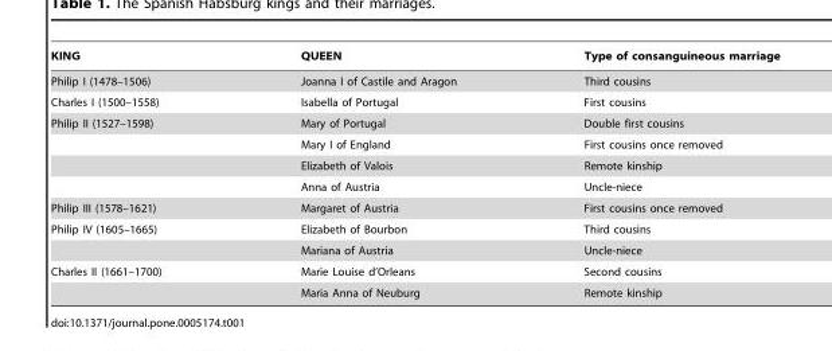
<table><thead><tr><td>KING</td><td>QUEEN</td><td>Type of consanguineous marriage</td></tr></thead><tbody><tr><td>Philip I (1478–1506)</td><td>Joanna I of Castile and Aragon</td><td>Third cousins</td></tr><tr><td>Charles I (1500–1558)</td><td>Isabella of Portugal</td><td>First cousins</td></tr><tr><td rowspan="4">Philip II (1527–1598)</td><td>Mary of Portugal</td><td>Double first cousins</td></tr><tr><td>Mary I of England</td><td>First cousins once removed</td></tr><tr><td>Elizabeth of Valois</td><td>Remote kinship</td></tr><tr><td>Anna of Austria</td><td>Uncle-niece</td></tr><tr><td>Philip III (1578–1621)</td><td>Margaret of Austria</td><td>First cousins once removed</td></tr><tr><td rowspan="2">Philip IV (1605–1665)</td><td>Elizabeth of Bourbon</td><td>Third cousins</td></tr><tr><td>Mariana of Austria</td><td>Uncle-niece</td></tr><tr><td rowspan="2">Charles II (1661–1700)</td><td>Marie Louise d’Orleans</td><td>Second cousins</td></tr><tr><td>Maria Anna of Neuburg</td><td>Remote kinship</td></tr></tbody></table>